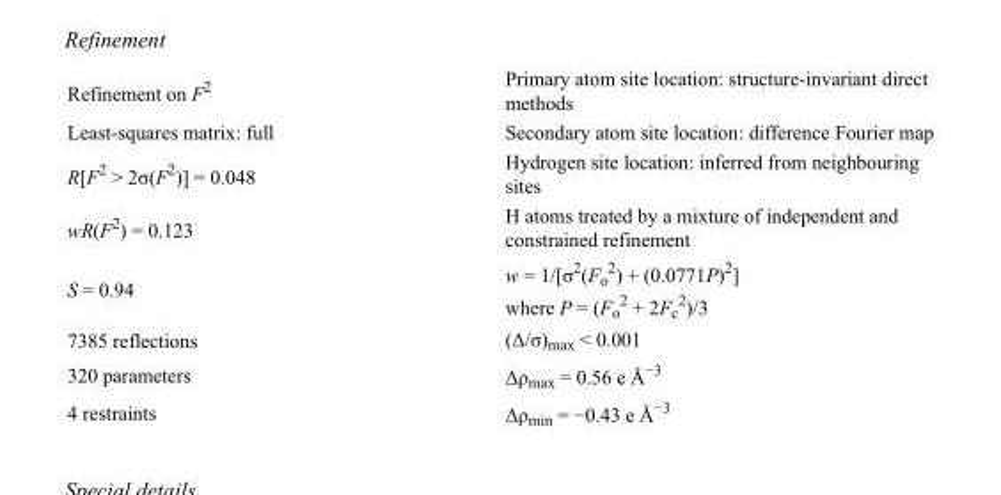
<table><tbody><tr><td>Refinement on F<sup>2</sup></td><td>Primary atom site location: structure-invariant direct methods</td></tr><tr><td>Least-squares matrix: full</td><td>Secondary atom site location: difference Fourier map</td></tr><tr><td>R[F<sup>2</sup> &gt; 2σ(F<sup>2</sup>)] = 0.048</td><td>Hydrogen site location: inferred from neighbouring sites</td></tr><tr><td>wR(F<sup>2</sup>) = 0.123</td><td>H atoms treated by a mixture of independent and constrained refinement</td></tr><tr><td>S = 0.94</td><td>w = 1/[σ<sup>2</sup>(F<sub>o</sub> <sup>2</sup>) + (0.0771P)<sup>2</sup>] where P = (F<sub>o</sub> <sup>2</sup> + 2F<sub>c</sub> <sup>2</sup>)/3</td></tr><tr><td>7385 reflections</td><td>(Δ/σ)<sub>max</sub> &lt; 0.001</td></tr><tr><td>320 parameters</td><td>Δρ<sub>max</sub> = 0.56 e Å<sup>−3</sup></td></tr><tr><td>4 restraints</td><td>Δρ<sub>min</sub> = −0.43 e Å<sup>−3</sup></td></tr></tbody></table>